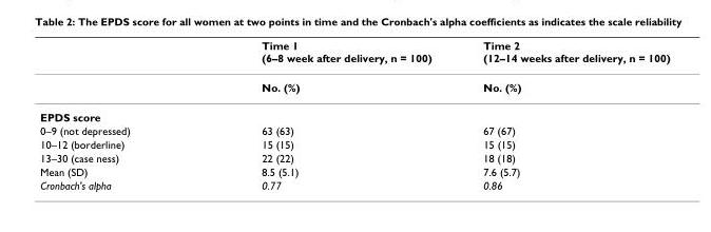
<table><thead><tr><td></td><td>Time 1 (6–8 week after delivery, n = 100)</td><td>Time 2 (12–14 weeks after delivery, n = 100)</td></tr></thead><tbody><tr><td></td><td>No. (%)</td><td>No. (%)</td></tr><tr><td colspan="3">EPDS score</td></tr><tr><td>0–9 (not depressed)</td><td>63 (63)</td><td>67 (67)</td></tr><tr><td>10–12 (borderline)</td><td>15 (15)</td><td>15 (15)</td></tr><tr><td>13–30 (case ness)</td><td>22 (22)</td><td>18 (18)</td></tr><tr><td>Mean (SD)</td><td>8.5 (5.1)</td><td>7.6 (5.7)</td></tr><tr><td>Cronbach&#x27;s alpha</td><td>0.77</td><td>0.86</td></tr></tbody></table>